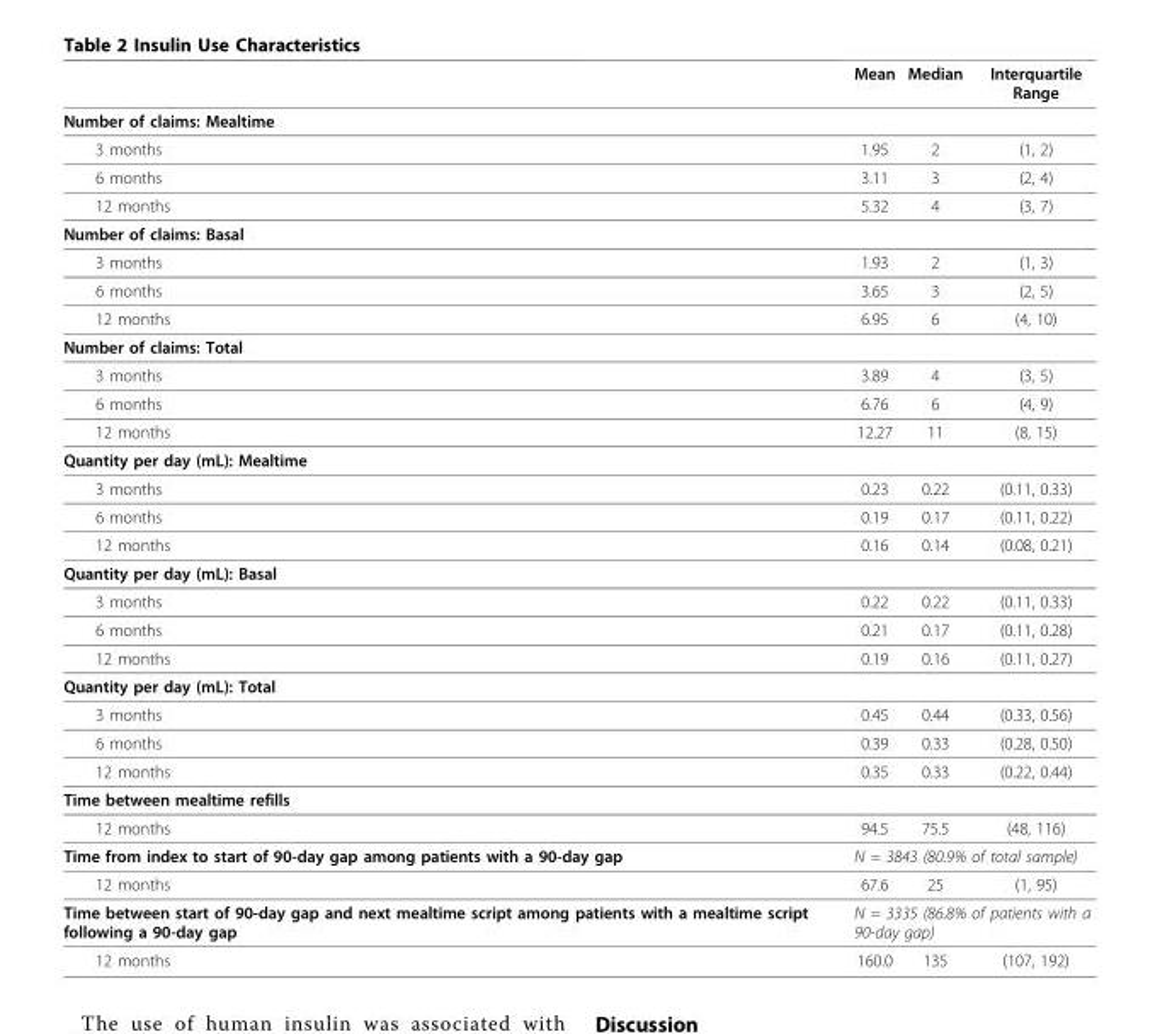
<table><thead><tr><td></td><td>Mean</td><td>Median</td><td>Interquartile Range</td></tr></thead><tbody><tr><td colspan="4">Number of claims: Mealtime</td></tr><tr><td>3 months</td><td>1.95</td><td>2</td><td>(1, 2)</td></tr><tr><td>6 months</td><td>3.11</td><td>3</td><td>(2, 4)</td></tr><tr><td>12 months</td><td>5.32</td><td>4</td><td>(3, 7)</td></tr><tr><td colspan="4">Number of claims: Basal</td></tr><tr><td>3 months</td><td>1.93</td><td>2</td><td>(1, 3)</td></tr><tr><td>6 months</td><td>3.65</td><td>3</td><td>(2, 5)</td></tr><tr><td>12 months</td><td>6.95</td><td>6</td><td>(4, 10)</td></tr><tr><td colspan="4">Number of claims: Total</td></tr><tr><td>3 months</td><td>3.89</td><td>4</td><td>(3, 5)</td></tr><tr><td>6 months</td><td>6.76</td><td>6</td><td>(4, 9)</td></tr><tr><td>12 months</td><td>12.27</td><td>11</td><td>(8, 15)</td></tr><tr><td colspan="4">Quantity per day (mL): Mealtime</td></tr><tr><td>3 months</td><td>0.23</td><td>0.22</td><td>(0.11, 0.33)</td></tr><tr><td>6 months</td><td>0.19</td><td>0.17</td><td>(0.11, 0.22)</td></tr><tr><td>12 months</td><td>0.16</td><td>0.14</td><td>(0.08, 0.21)</td></tr><tr><td colspan="4">Quantity per day (mL): Basal</td></tr><tr><td>3 months</td><td>0.22</td><td>0.22</td><td>(0.11, 0.33)</td></tr><tr><td>6 months</td><td>0.21</td><td>0.17</td><td>(0.11, 0.28)</td></tr><tr><td>12 months</td><td>0.19</td><td>0.16</td><td>(0.11, 0.27)</td></tr><tr><td colspan="4">Quantity per day (mL): Total</td></tr><tr><td>3 months</td><td>0.45</td><td>0.44</td><td>(0.33, 0.56)</td></tr><tr><td>6 months</td><td>0.39</td><td>0.33</td><td>(0.28, 0.50)</td></tr><tr><td>12 months</td><td>0.35</td><td>0.33</td><td>(0.22, 0.44)</td></tr><tr><td colspan="4">Time between mealtime refills</td></tr><tr><td>12 months</td><td>94.5</td><td>75.5</td><td>(48, 116)</td></tr><tr><td>Time from index to start of 90-day gap among patients with a 90-day gap</td><td colspan="3">N = 3843 (80.9% of total sample)</td></tr><tr><td>12 months</td><td>67.6</td><td>25</td><td>(1, 95)</td></tr><tr><td>Time between start of 90-day gap and next mealtime script among patients with a mealtime script following a 90-day gap</td><td colspan="3">N = 3335 (86.8% of patients with a 90-day gap)</td></tr><tr><td>12 months</td><td>160.0</td><td>135</td><td>(107, 192)</td></tr></tbody></table>